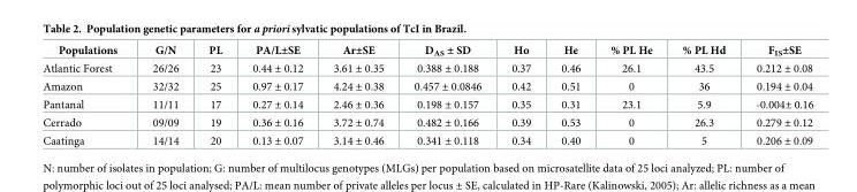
<table><thead><tr><td>Populations</td><td>G/N</td><td>PL</td><td>PA/L±SE</td><td>Ar±SE</td><td>D<sub>AS</sub> ± SD</td><td>Ho</td><td>He</td><td>% PL He</td><td>% PL Hd</td><td>F<sub>IS</sub>±SE</td></tr></thead><tbody><tr><td>Atlantic Forest</td><td>26/26</td><td>23</td><td>0.44 ± 0.12</td><td>3.61 ± 0.35</td><td>0.388 ± 0.188</td><td>0.37</td><td>0.46</td><td>26.1</td><td>43.5</td><td>0.212 ± 0.08</td></tr><tr><td>Amazon</td><td>32/32</td><td>25</td><td>0.97 ± 0.17</td><td>4.24 ± 0.38</td><td>0.457 ± 0.0846</td><td>0.42</td><td>0.51</td><td>0</td><td>36</td><td>0.194 ± 0.04</td></tr><tr><td>Pantanal</td><td>11/11</td><td>17</td><td>0.27 ± 0.14</td><td>2.46 ± 0.36</td><td>0.198 ± 0.157</td><td>0.35</td><td>0.31</td><td>23.1</td><td>5.9</td><td>-0.004± 0.16</td></tr><tr><td>Cerrado</td><td>09/09</td><td>19</td><td>0.36 ± 0.16</td><td>3.72 ± 0.74</td><td>0.482 ± 0.166</td><td>0.39</td><td>0.53</td><td>0</td><td>26.3</td><td>0.279 ± 0.12</td></tr><tr><td>Caatinga</td><td>14/14</td><td>20</td><td>0.13 ± 0.07</td><td>3.14 ± 0.46</td><td>0.341 ± 0.118</td><td>0.34</td><td>0.40</td><td>0</td><td>5</td><td>0.206 ± 0.09</td></tr></tbody></table>